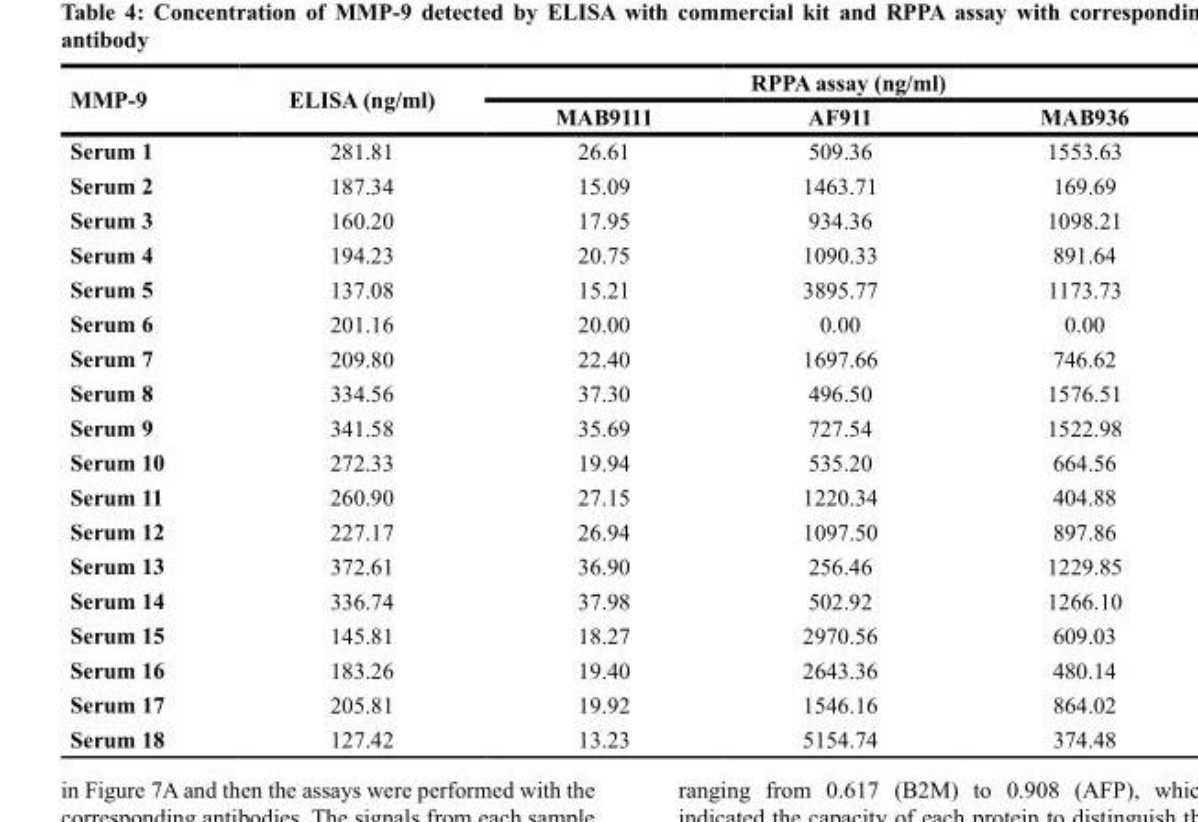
<table><thead><tr><td rowspan="2">MMP-9</td><td rowspan="2">ELISA (ng/ml)</td><td colspan="3">RPPA assay (ng/ml)</td></tr><tr><td>MAB9111</td><td>AF911</td><td>MAB936</td></tr></thead><tbody><tr><td>Serum 1</td><td>281.81</td><td>26.61</td><td>509.36</td><td>1553.63</td></tr><tr><td>Serum 2</td><td>187.34</td><td>15.09</td><td>1463.71</td><td>169.69</td></tr><tr><td>Serum 3</td><td>160.20</td><td>17.95</td><td>934.36</td><td>1098.21</td></tr><tr><td>Serum 4</td><td>194.23</td><td>20.75</td><td>1090.33</td><td>891.64</td></tr><tr><td>Serum 5</td><td>137.08</td><td>15.21</td><td>3895.77</td><td>1173.73</td></tr><tr><td>Serum 6</td><td>201.16</td><td>20.00</td><td>0.00</td><td>0.00</td></tr><tr><td>Serum 7</td><td>209.80</td><td>22.40</td><td>1697.66</td><td>746.62</td></tr><tr><td>Serum 8</td><td>334.56</td><td>37.30</td><td>496.50</td><td>1576.51</td></tr><tr><td>Serum 9</td><td>341.58</td><td>35.69</td><td>727.54</td><td>1522.98</td></tr><tr><td>Serum 10</td><td>272.33</td><td>19.94</td><td>535.20</td><td>664.56</td></tr><tr><td>Serum 11</td><td>260.90</td><td>27.15</td><td>1220.34</td><td>404.88</td></tr><tr><td>Serum 12</td><td>227.17</td><td>26.94</td><td>1097.50</td><td>897.86</td></tr><tr><td>Serum 13</td><td>372.61</td><td>36.90</td><td>256.46</td><td>1229.85</td></tr><tr><td>Serum 14</td><td>336.74</td><td>37.98</td><td>502.92</td><td>1266.10</td></tr><tr><td>Serum 15</td><td>145.81</td><td>18.27</td><td>2970.56</td><td>609.03</td></tr><tr><td>Serum 16</td><td>183.26</td><td>19.40</td><td>2643.36</td><td>480.14</td></tr><tr><td>Serum 17</td><td>205.81</td><td>19.92</td><td>1546.16</td><td>864.02</td></tr><tr><td>Serum 18</td><td>127.42</td><td>13.23</td><td>5154.74</td><td>374.48</td></tr></tbody></table>